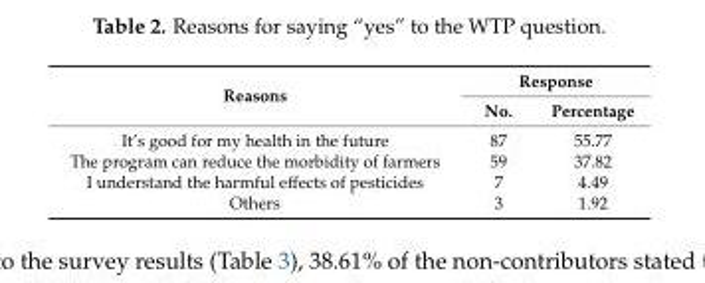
<table><thead><tr><td rowspan="2">Reasons</td><td colspan="2">Response</td></tr><tr><td>No.</td><td>Percentage</td></tr></thead><tbody><tr><td>It’s good for my health in the future</td><td>87</td><td>55.77</td></tr><tr><td>The program can reduce the morbidity of farmers</td><td>59</td><td>37.82</td></tr><tr><td>I understand the harmful effects of pesticides</td><td>7</td><td>4.49</td></tr><tr><td>Others</td><td>3</td><td>1.92</td></tr></tbody></table>